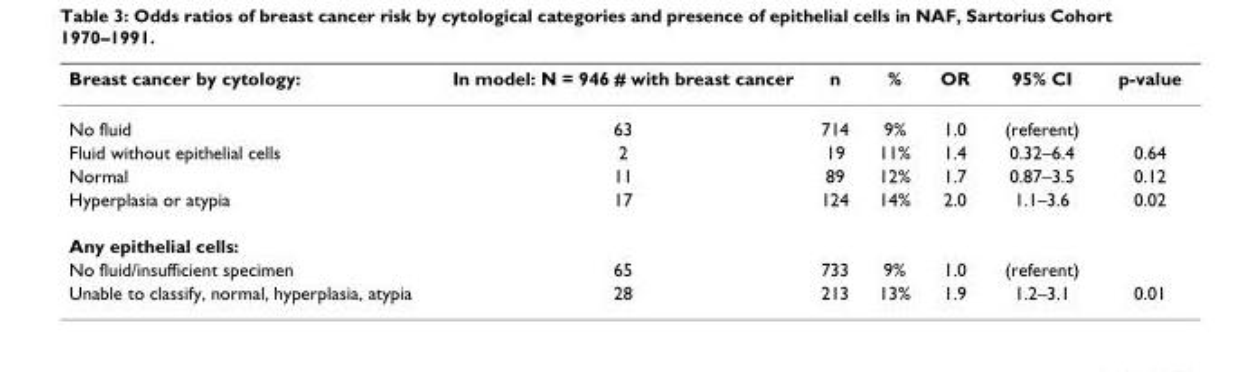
<table><thead><tr><td>Breast cancer by cytology:</td><td>In model: N = 946 # with breast cancer</td><td>n</td><td>%</td><td>OR</td><td>95% CI</td><td>p-value</td></tr></thead><tbody><tr><td>No fluid</td><td>63</td><td>714</td><td>9%</td><td>1.0</td><td>(referent)</td><td></td></tr><tr><td>Fluid without epithelial cells</td><td>2</td><td>19</td><td>11%</td><td>1.4</td><td>0.32–6.4</td><td>0.64</td></tr><tr><td>Normal</td><td>11</td><td>89</td><td>12%</td><td>1.7</td><td>0.87–3.5</td><td>0.12</td></tr><tr><td>Hyperplasia or atypia</td><td>17</td><td>124</td><td>14%</td><td>2.0</td><td>1.1–3.6</td><td>0.02</td></tr><tr><td colspan="7">Any epithelial cells:</td></tr><tr><td>No fluid/insufficient specimen</td><td>65</td><td>733</td><td>9%</td><td>1.0</td><td>(referent)</td><td></td></tr><tr><td>Unable to classify, normal, hyperplasia, atypia</td><td>28</td><td>213</td><td>13%</td><td>1.9</td><td>1.2–3.1</td><td>0.01</td></tr></tbody></table>